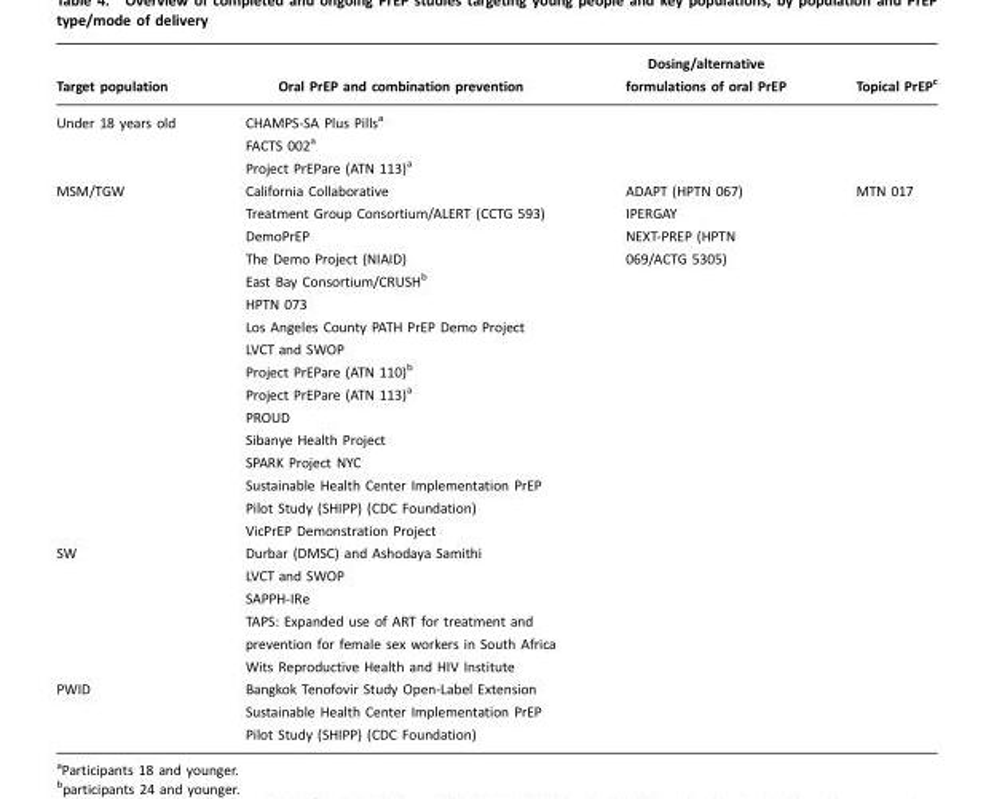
<table><thead><tr><td>Target population</td><td>Oral PrEP and combination prevention</td><td>Dosing/alternative formulations of oral PrEP</td><td>Topical PrEP<sup>c</sup></td></tr></thead><tbody><tr><td>Under 18 years old</td><td>CHAMPS-SA Plus Pills<sup>a</sup> FACTS 002<sup>a</sup> Project PrEPare (ATN 113)<sup>a</sup></td><td></td><td></td></tr><tr><td>MSM/TGW</td><td>California Collaborative Treatment Group Consortium/ALERT (CCTG 593) DemoPrEP The Demo Project (NIAID) East Bay Consortium/CRUSH<sup>b</sup> HPTN 073 Los Angeles County PATH PrEP Demo Project LVCT and SWOP Project PrEPare (ATN 110)<sup>b</sup> Project PrEPare (ATN 113)<sup>a</sup> PROUD Sibanye Health Project SPARK Project NYC Sustainable Health Center Implementation PrEP Pilot Study (SHIPP) (CDC Foundation) VicPrEP Demonstration Project</td><td>ADAPT (HPTN 067) IPERGAY NEXT-PREP (HPTN 069/ACTG 5305)</td><td>MTN 017</td></tr><tr><td>SW</td><td>Durbar (DMSC) and Ashodaya Samithi LVCT and SWOP SAPPH-IRe TAPS: Expanded use of ART for treatment and prevention for female sex workers in South Africa Wits Reproductive Health and HIV Institute</td><td></td><td></td></tr><tr><td>PWID</td><td>Bangkok Tenofovir Study Open-Label Extension Sustainable Health Center Implementation PrEP Pilot Study (SHIPP) (CDC Foundation)</td><td></td><td></td></tr></tbody></table>